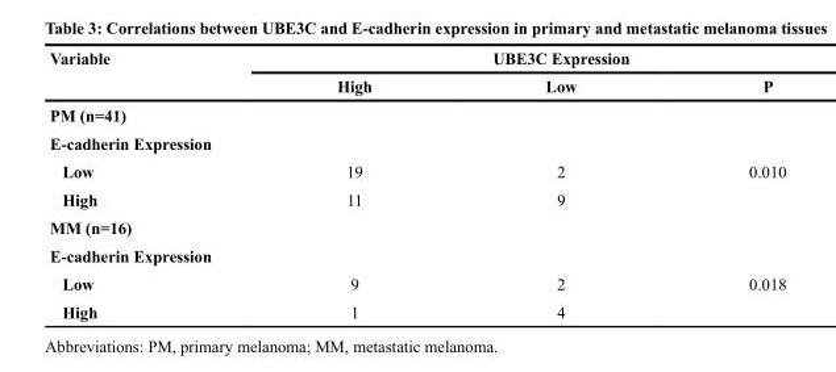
<table><thead><tr><td rowspan="2">Variable</td><td colspan="3">UBE3C Expression</td></tr><tr><td>High</td><td>Low</td><td>P</td></tr></thead><tbody><tr><td colspan="4">PM (n=41)</td></tr><tr><td colspan="4">E-cadherin Expression</td></tr><tr><td>Low</td><td>19</td><td>2</td><td>0.010</td></tr><tr><td>High</td><td>11</td><td>9</td><td></td></tr><tr><td colspan="4">MM (n=16)</td></tr><tr><td colspan="4">E-cadherin Expression</td></tr><tr><td>Low</td><td>9</td><td>2</td><td>0.018</td></tr><tr><td>High</td><td>1</td><td>4</td><td></td></tr></tbody></table>